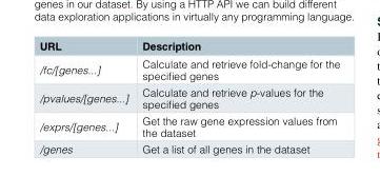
<table><thead><tr><td>URL</td><td>Description</td></tr></thead><tbody><tr><td>/fc/[genes...]</td><td>Calculate and retrieve fold-change for the specified genes</td></tr><tr><td>/pvalues/[genes...]</td><td>Calculate and retrieve p-values for the specified genes</td></tr><tr><td>/exprs/[genes...]</td><td>Get the raw gene expression values from the dataset</td></tr><tr><td>/genes</td><td>Get a list of all genes in the dataset</td></tr></tbody></table>